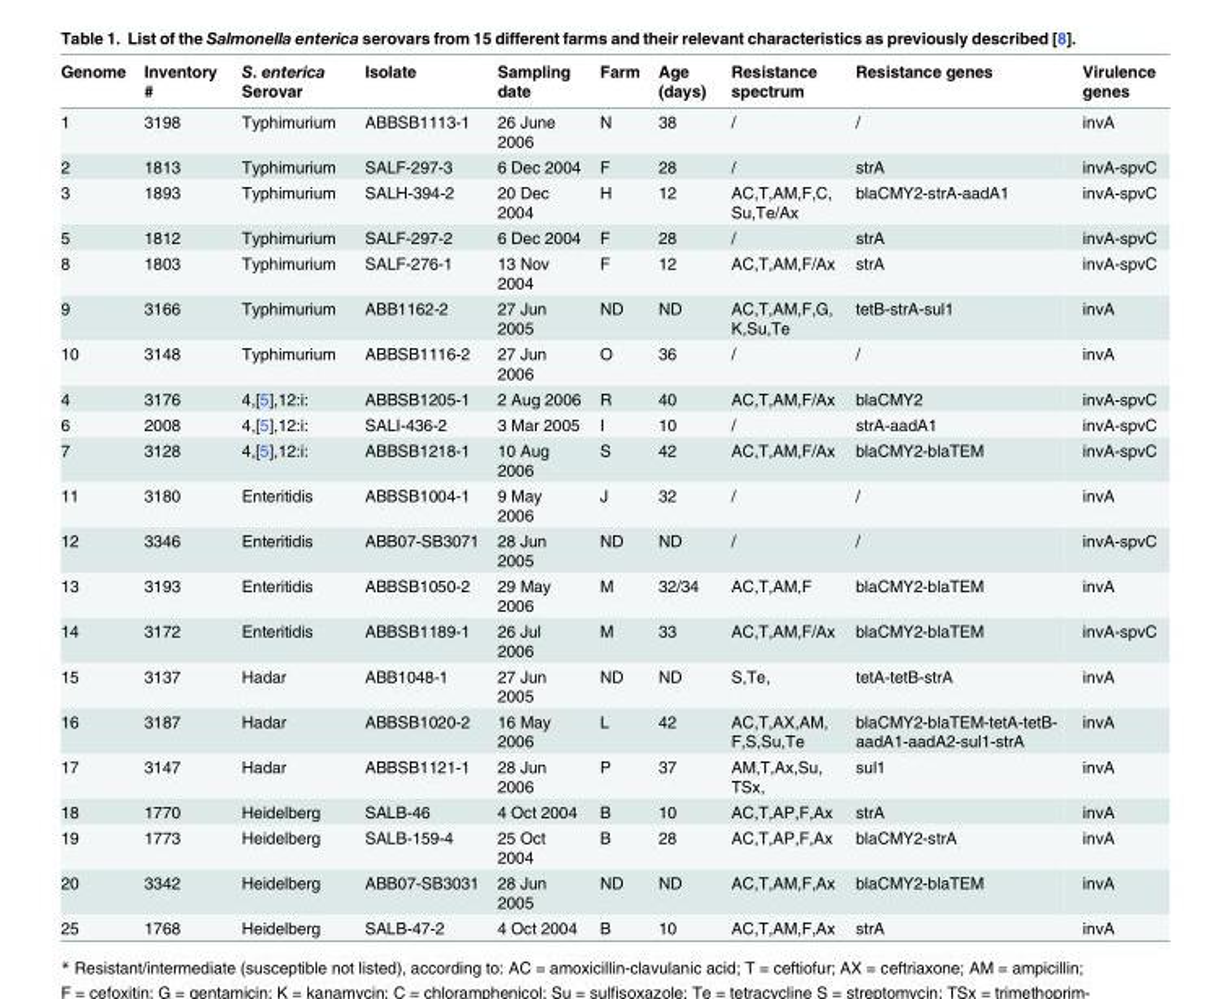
<table><thead><tr><td>Genome</td><td>Inventory #</td><td>S. enterica Serovar</td><td>Isolate</td><td>Sampling date</td><td>Farm</td><td>Age (days)</td><td>Resistance spectrum</td><td>Resistance genes</td><td>Virulence genes</td></tr></thead><tbody><tr><td>1</td><td>3198</td><td>Typhimurium</td><td>ABBSB1113-1</td><td>26 June 2006</td><td>N</td><td>38</td><td>/</td><td>/</td><td>invA</td></tr><tr><td>2</td><td>1813</td><td>Typhimurium</td><td>SALF-297-3</td><td>6 Dec 2004</td><td>F</td><td>28</td><td>/</td><td>strA</td><td>invA-spvC</td></tr><tr><td>3</td><td>1893</td><td>Typhimurium</td><td>SALH-394-2</td><td>20 Dec 2004</td><td>H</td><td>12</td><td>AC,T,AM,F,C, Su,Te/Ax</td><td>blaCMY2-strA-aadA1</td><td>invA-spvC</td></tr><tr><td>5</td><td>1812</td><td>Typhimurium</td><td>SALF-297-2</td><td>6 Dec 2004</td><td>F</td><td>28</td><td>/</td><td>strA</td><td>invA-spvC</td></tr><tr><td>8</td><td>1803</td><td>Typhimurium</td><td>SALF-276-1</td><td>13 Nov 2004</td><td>F</td><td>12</td><td>AC,T,AM,F/Ax</td><td>strA</td><td>invA-spvC</td></tr><tr><td>9</td><td>3166</td><td>Typhimurium</td><td>ABB1162-2</td><td>27 Jun 2005</td><td>ND</td><td>ND</td><td>AC,T,AM,F,G, K,Su,Te</td><td>tetB-strA-sul1</td><td>invA</td></tr><tr><td>10</td><td>3148</td><td>Typhimurium</td><td>ABBSB1116-2</td><td>27 Jun 2006</td><td>O</td><td>36</td><td>/</td><td>/</td><td>invA</td></tr><tr><td>4</td><td>3176</td><td>4,[5],12:i:</td><td>ABBSB1205-1</td><td>2 Aug 2006</td><td>R</td><td>40</td><td>AC,T,AM,F/Ax</td><td>blaCMY2</td><td>invA-spvC</td></tr><tr><td>6</td><td>2008</td><td>4,[5],12:i:</td><td>SALI-436-2</td><td>3 Mar 2005</td><td>I</td><td>10</td><td>/</td><td>strA-aadA1</td><td>invA-spvC</td></tr><tr><td>7</td><td>3128</td><td>4,[5],12:i:</td><td>ABBSB1218-1</td><td>10 Aug 2006</td><td>S</td><td>42</td><td>AC,T,AM,F/Ax</td><td>blaCMY2-blaTEM</td><td>invA-spvC</td></tr><tr><td>11</td><td>3180</td><td>Enteritidis</td><td>ABBSB1004-1</td><td>9 May 2006</td><td>J</td><td>32</td><td>/</td><td>/</td><td>invA</td></tr><tr><td>12</td><td>3346</td><td>Enteritidis</td><td>ABB07-SB3071</td><td>28 Jun 2005</td><td>ND</td><td>ND</td><td>/</td><td>/</td><td>invA-spvC</td></tr><tr><td>13</td><td>3193</td><td>Enteritidis</td><td>ABBSB1050-2</td><td>29 May 2006</td><td>M</td><td>32/34</td><td>AC,T,AM,F</td><td>blaCMY2-blaTEM</td><td>invA</td></tr><tr><td>14</td><td>3172</td><td>Enteritidis</td><td>ABBSB1189-1</td><td>26 Jul 2006</td><td>M</td><td>33</td><td>AC,T,AM,F/Ax</td><td>blaCMY2-blaTEM</td><td>invA-spvC</td></tr><tr><td>15</td><td>3137</td><td>Hadar</td><td>ABB1048-1</td><td>27 Jun 2005</td><td>ND</td><td>ND</td><td>S,Te,</td><td>tetA-tetB-strA</td><td>invA</td></tr><tr><td>16</td><td>3187</td><td>Hadar</td><td>ABBSB1020-2</td><td>16 May 2006</td><td>L</td><td>42</td><td>AC,T,AX,AM, F,S,Su,Te</td><td>blaCMY2-blaTEM-tetA-tetB- aadA1-aadA2-sul1-strA</td><td>invA</td></tr><tr><td>17</td><td>3147</td><td>Hadar</td><td>ABBSB1121-1</td><td>28 Jun 2006</td><td>P</td><td>37</td><td>AM,T,Ax,Su, TSx,</td><td>sul1</td><td>invA</td></tr><tr><td>18</td><td>1770</td><td>Heidelberg</td><td>SALB-46</td><td>4 Oct 2004</td><td>B</td><td>10</td><td>AC,T,AP,F,Ax</td><td>strA</td><td>invA</td></tr><tr><td>19</td><td>1773</td><td>Heidelberg</td><td>SALB-159-4</td><td>25 Oct 2004</td><td>B</td><td>28</td><td>AC,T,AP,F,Ax</td><td>blaCMY2-strA</td><td>invA</td></tr><tr><td>20</td><td>3342</td><td>Heidelberg</td><td>ABB07-SB3031</td><td>28 Jun 2005</td><td>ND</td><td>ND</td><td>AC,T,AM,F,Ax</td><td>blaCMY2-blaTEM</td><td>invA</td></tr><tr><td>25</td><td>1768</td><td>Heidelberg</td><td>SALB-47-2</td><td>4 Oct 2004</td><td>B</td><td>10</td><td>AC,T,AM,F,Ax</td><td>strA</td><td>invA</td></tr></tbody></table>